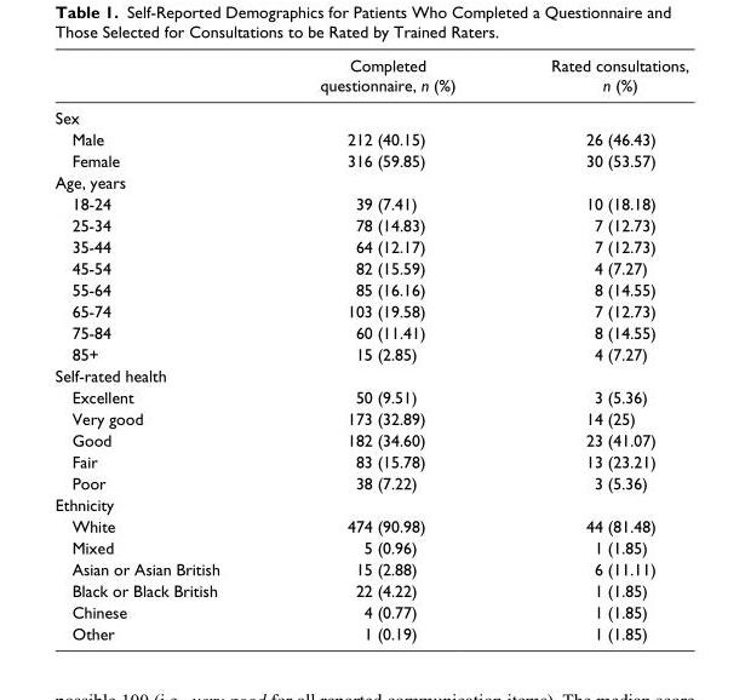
<table><thead><tr><td></td><td>Completed questionnaire, n (%)</td><td>Rated consultations, n (%)</td></tr></thead><tbody><tr><td colspan="3">Sex</td></tr><tr><td>Male</td><td>212 (40.15)</td><td>26 (46.43)</td></tr><tr><td>Female</td><td>316 (59.85)</td><td>30 (53.57)</td></tr><tr><td colspan="3">Age, years</td></tr><tr><td>18-24</td><td>39 (7.41)</td><td>10 (18.18)</td></tr><tr><td>25-34</td><td>78 (14.83)</td><td>7 (12.73)</td></tr><tr><td>35-44</td><td>64 (12.17)</td><td>7 (12.73)</td></tr><tr><td>45-54</td><td>82 (15.59)</td><td>4 (7.27)</td></tr><tr><td>55-64</td><td>85 (16.16)</td><td>8 (14.55)</td></tr><tr><td>65-74</td><td>103 (19.58)</td><td>7 (12.73)</td></tr><tr><td>75-84</td><td>60 (11.41)</td><td>8 (14.55)</td></tr><tr><td>85+</td><td>15 (2.85)</td><td>4 (7.27)</td></tr><tr><td colspan="3">Self-rated health</td></tr><tr><td>Excellent</td><td>50 (9.51)</td><td>3 (5.36)</td></tr><tr><td>Very good</td><td>173 (32.89)</td><td>14 (25)</td></tr><tr><td>Good</td><td>182 (34.60)</td><td>23 (41.07)</td></tr><tr><td>Fair</td><td>83 (15.78)</td><td>13 (23.21)</td></tr><tr><td>Poor</td><td>38 (7.22)</td><td>3 (5.36)</td></tr><tr><td colspan="3">Ethnicity</td></tr><tr><td>White</td><td>474 (90.98)</td><td>44 (81.48)</td></tr><tr><td>Mixed</td><td>5 (0.96)</td><td>1 (1.85)</td></tr><tr><td>Asian or Asian British</td><td>15 (2.88)</td><td>6 (11.11)</td></tr><tr><td>Black or Black British</td><td>22 (4.22)</td><td>1 (1.85)</td></tr><tr><td>Chinese</td><td>4 (0.77)</td><td>1 (1.85)</td></tr><tr><td>Other</td><td>1 (0.19)</td><td>1 (1.85)</td></tr></tbody></table>